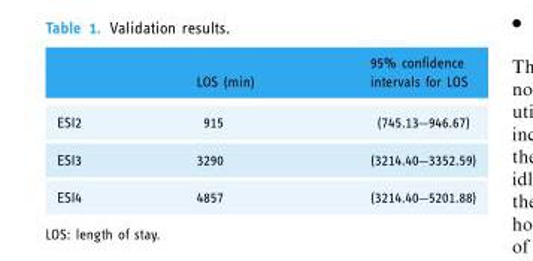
<table><thead><tr><td></td><td>LOS (min)</td><td>95% confidence intervals for LOS</td></tr></thead><tbody><tr><td>ESI2</td><td>915</td><td>(745.13–946.67)</td></tr><tr><td>ESI3</td><td>3290</td><td>(3214.40–3352.59)</td></tr><tr><td>ESI4</td><td>4857</td><td>(3214.40–5201.88)</td></tr></tbody></table>